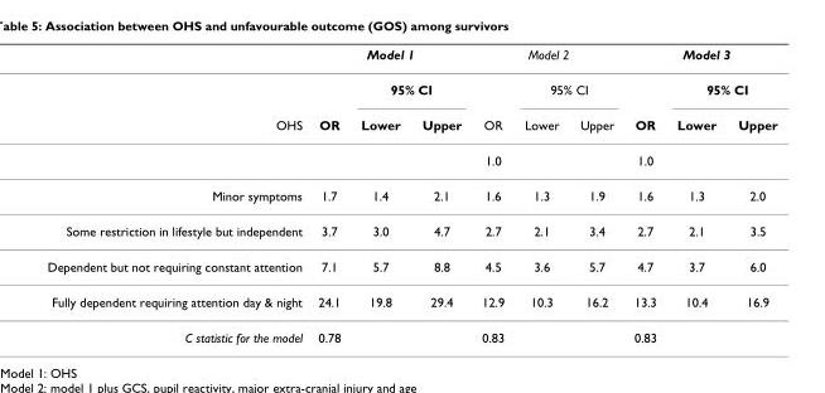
<table><thead><tr><td rowspan="3">OHS</td><td colspan="3">Model 1</td><td colspan="3">Model 2</td><td colspan="3">Model 3</td></tr><tr><td rowspan="2">OR</td><td colspan="2">95% CI</td><td rowspan="2">OR</td><td colspan="2">95% CI</td><td rowspan="2">OR</td><td colspan="2">95% CI</td></tr><tr><td>Lower</td><td>Upper</td><td>Lower</td><td>Upper</td><td>Lower</td><td>Upper</td></tr></thead><tbody><tr><td></td><td></td><td></td><td></td><td>1.0</td><td></td><td></td><td>1.0</td><td></td><td></td></tr><tr><td>Minor symptoms</td><td>1.7</td><td>1.4</td><td>2.1</td><td>1.6</td><td>1.3</td><td>1.9</td><td>1.6</td><td>1.3</td><td>2.0</td></tr><tr><td>Some restriction in lifestyle but independent</td><td>3.7</td><td>3.0</td><td>4.7</td><td>2.7</td><td>2.1</td><td>3.4</td><td>2.7</td><td>2.1</td><td>3.5</td></tr><tr><td>Dependent but not requiring constant attention</td><td>7.1</td><td>5.7</td><td>8.8</td><td>4.5</td><td>3.6</td><td>5.7</td><td>4.7</td><td>3.7</td><td>6.0</td></tr><tr><td>Fully dependent requiring attention day &amp; night</td><td>24.1</td><td>19.8</td><td>29.4</td><td>12.9</td><td>10.3</td><td>16.2</td><td>13.3</td><td>10.4</td><td>16.9</td></tr><tr><td>C statistic for the model</td><td>0.78</td><td></td><td></td><td>0.83</td><td></td><td></td><td>0.83</td><td></td><td></td></tr></tbody></table>